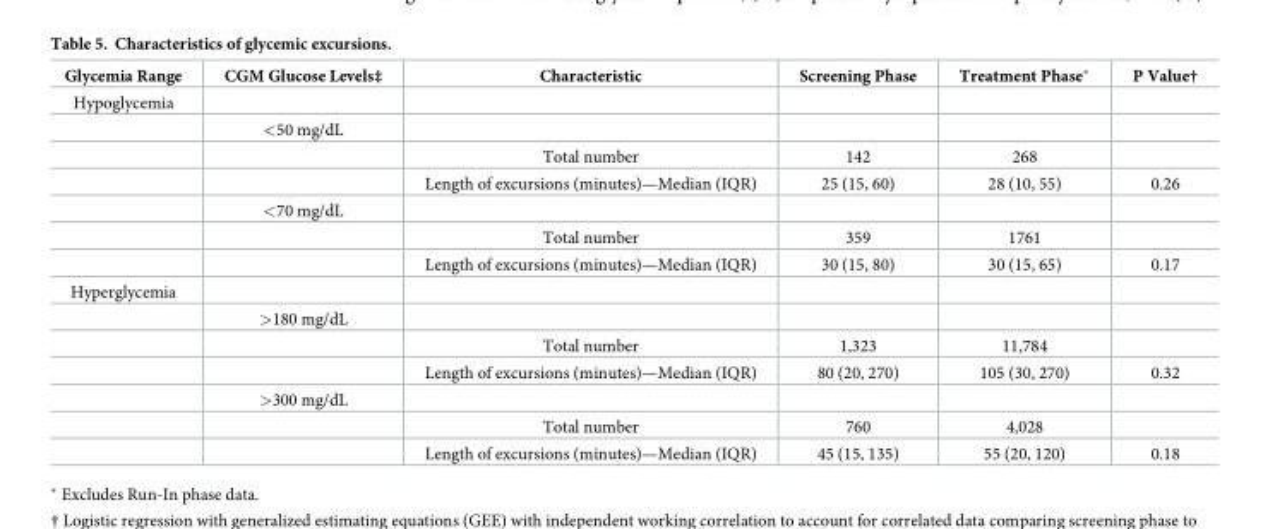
<table><thead><tr><td>Glycemia Range</td><td>CGM Glucose Levels‡</td><td>Characteristic</td><td>Screening Phase</td><td>Treatment Phase*</td><td>P Value†</td></tr></thead><tbody><tr><td colspan="6">Hypoglycemia</td></tr><tr><td></td><td>&lt;50 mg/dL</td><td></td><td></td><td></td><td></td></tr><tr><td></td><td></td><td>Total number</td><td>142</td><td>268</td><td></td></tr><tr><td></td><td></td><td>Length of excursions (minutes)—Median (IQR)</td><td>25 (15, 60)</td><td>28 (10, 55)</td><td>0.26</td></tr><tr><td></td><td>&lt;70 mg/dL</td><td></td><td></td><td></td><td></td></tr><tr><td></td><td></td><td>Total number</td><td>359</td><td>1761</td><td></td></tr><tr><td></td><td></td><td>Length of excursions (minutes)—Median (IQR)</td><td>30 (15, 80)</td><td>30 (15, 65)</td><td>0.17</td></tr><tr><td colspan="6">Hyperglycemia</td></tr><tr><td></td><td>&gt;180 mg/dL</td><td></td><td></td><td></td><td></td></tr><tr><td></td><td></td><td>Total number</td><td>1,323</td><td>11,784</td><td></td></tr><tr><td></td><td></td><td>Length of excursions (minutes)—Median (IQR)</td><td>80 (20, 270)</td><td>105 (30, 270)</td><td>0.32</td></tr><tr><td></td><td>&gt;300 mg/dL</td><td></td><td></td><td></td><td></td></tr><tr><td></td><td></td><td>Total number</td><td>760</td><td>4,028</td><td></td></tr><tr><td></td><td></td><td>Length of excursions (minutes)—Median (IQR)</td><td>45 (15, 135)</td><td>55 (20, 120)</td><td>0.18</td></tr></tbody></table>